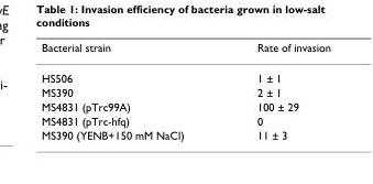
<table><thead><tr><td>Bacterial strain</td><td>Rate of invasion</td></tr></thead><tbody><tr><td>HS506</td><td>1 ± 1</td></tr><tr><td>MS390</td><td>2 ± 1</td></tr><tr><td>MS4831 (pTrc99A)</td><td>100 ± 29</td></tr><tr><td>MS4831 (pTrc-hfq)</td><td>0</td></tr><tr><td>MS390 (YENB+150 mM NaCl)</td><td>11 ± 3</td></tr></tbody></table>